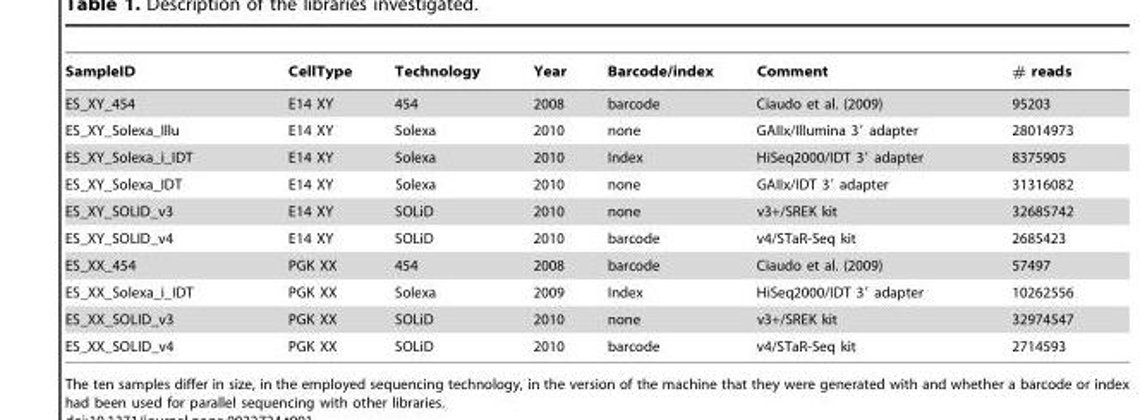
<table><thead><tr><td>SampleID</td><td>CellType</td><td>Technology</td><td>Year</td><td>Barcode/index</td><td>Comment</td><td># reads</td></tr></thead><tbody><tr><td>ES_XY_454</td><td>E14 XY</td><td>454</td><td>2008</td><td>barcode</td><td>Ciaudo et al. (2009)</td><td>95203</td></tr><tr><td>ES_XY_Solexa_Illu</td><td>E14 XY</td><td>Solexa</td><td>2010</td><td>none</td><td>GAIIx/Illumina 3′ adapter</td><td>28014973</td></tr><tr><td>ES_XY_Solexa_i_IDT</td><td>E14 XY</td><td>Solexa</td><td>2010</td><td>Index</td><td>HiSeq2000/IDT 3′ adapter</td><td>8375905</td></tr><tr><td>ES_XY_Solexa_IDT</td><td>E14 XY</td><td>Solexa</td><td>2010</td><td>none</td><td>GAIIx/IDT 3′ adapter</td><td>31316082</td></tr><tr><td>ES_XY_SOLID_v3</td><td>E14 XY</td><td>SOLiD</td><td>2010</td><td>none</td><td>v3+/SREK kit</td><td>32685742</td></tr><tr><td>ES_XY_SOLID_v4</td><td>E14 XY</td><td>SOLiD</td><td>2010</td><td>barcode</td><td>v4/STaR-Seq kit</td><td>2685423</td></tr><tr><td>ES_XX_454</td><td>PGK XX</td><td>454</td><td>2008</td><td>barcode</td><td>Ciaudo et al. (2009)</td><td>57497</td></tr><tr><td>ES_XX_Solexa_i_IDT</td><td>PGK XX</td><td>Solexa</td><td>2009</td><td>Index</td><td>HiSeq2000/IDT 3′ adapter</td><td>10262556</td></tr><tr><td>ES_XX_SOLID_v3</td><td>PGK XX</td><td>SOLiD</td><td>2010</td><td>none</td><td>v3+/SREK kit</td><td>32974547</td></tr><tr><td>ES_XX_SOLID_v4</td><td>PGK XX</td><td>SOLiD</td><td>2010</td><td>barcode</td><td>v4/STaR-Seq kit</td><td>2714593</td></tr></tbody></table>